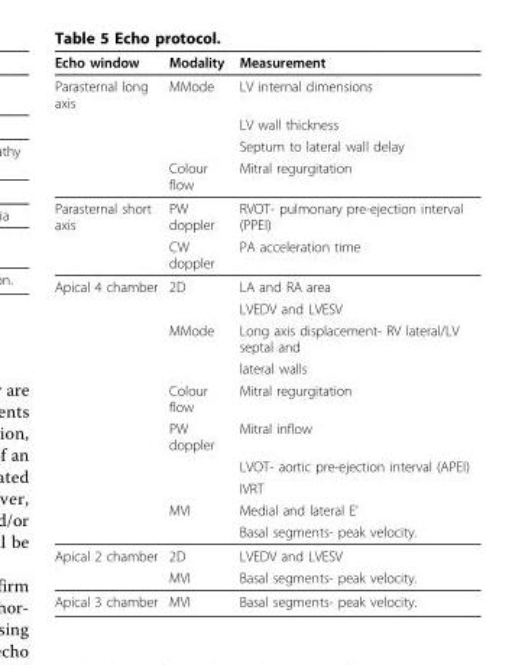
<table><thead><tr><td>Echo window</td><td>Modality</td><td>Measurement</td></tr></thead><tbody><tr><td rowspan="4">Parasternal long axis</td><td>MMode</td><td>LV internal dimensions</td></tr><tr><td></td><td>LV wall thickness</td></tr><tr><td></td><td>Septum to lateral wall delay</td></tr><tr><td>Colour flow</td><td>Mitral regurgitation</td></tr><tr><td rowspan="2">Parasternal short axis</td><td>PW doppler</td><td>RVOT- pulmonary pre-ejection interval (PPEI)</td></tr><tr><td>CW doppler</td><td>PA acceleration time</td></tr><tr><td rowspan="10">Apical 4 chamber</td><td>2D</td><td>LA and RA area</td></tr><tr><td></td><td>LVEDV and LVESV</td></tr><tr><td>MMode</td><td>Long axis displacement- RV lateral/LV septal and</td></tr><tr><td></td><td>lateral walls</td></tr><tr><td>Colour flow</td><td>Mitral regurgitation</td></tr><tr><td>PW doppler</td><td>Mitral inflow</td></tr><tr><td></td><td>LVOT- aortic pre-ejection interval (APEI)</td></tr><tr><td></td><td>IVRT</td></tr><tr><td>MVI</td><td>Medial and lateral E’</td></tr><tr><td></td><td>Basal segments- peak velocity.</td></tr><tr><td rowspan="2">Apical 2 chamber</td><td>2D</td><td>LVEDV and LVESV</td></tr><tr><td>MVI</td><td>Basal segments- peak velocity.</td></tr><tr><td>Apical 3 chamber</td><td>MVI</td><td>Basal segments- peak velocity.</td></tr></tbody></table>